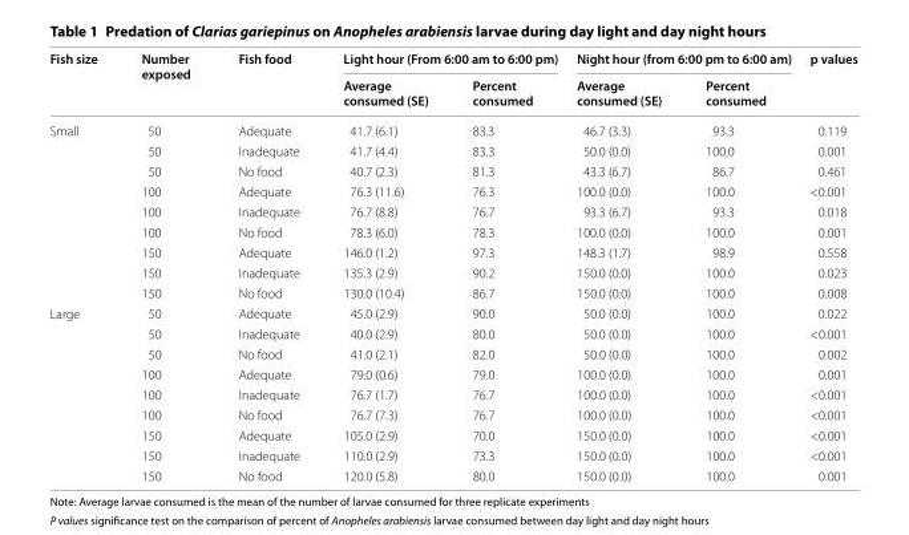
<table><thead><tr><td rowspan="2">Fish size</td><td rowspan="2">Number exposed</td><td rowspan="2">Fish food</td><td colspan="2">Light hour (From 6:00 am to 6:00 pm)</td><td colspan="2">Night hour (from 6:00 pm to 6:00 am)</td><td rowspan="2">p values</td></tr><tr><td>Average consumed (SE)</td><td>Percent consumed</td><td>Average consumed (SE)</td><td>Percent consumed</td></tr></thead><tbody><tr><td rowspan="9">Small</td><td>50</td><td>Adequate</td><td>41.7 (6.1)</td><td>83.3</td><td>46.7 (3.3)</td><td>93.3</td><td>0.119</td></tr><tr><td>50</td><td>Inadequate</td><td>41.7 (4.4)</td><td>83.3</td><td>50.0 (0.0)</td><td>100.0</td><td>0.001</td></tr><tr><td>50</td><td>No food</td><td>40.7 (2.3)</td><td>81.3</td><td>43.3 (6.7)</td><td>86.7</td><td>0.461</td></tr><tr><td>100</td><td>Adequate</td><td>76.3 (11.6)</td><td>76.3</td><td>100.0 (0.0)</td><td>100.0</td><td>&lt;0.001</td></tr><tr><td>100</td><td>Inadequate</td><td>76.7 (8.8)</td><td>76.7</td><td>93.3 (6.7)</td><td>93.3</td><td>0.018</td></tr><tr><td>100</td><td>No food</td><td>78.3 (6.0)</td><td>78.3</td><td>100.0 (0.0)</td><td>100.0</td><td>0.001</td></tr><tr><td>150</td><td>Adequate</td><td>146.0 (1.2)</td><td>97.3</td><td>148.3 (1.7)</td><td>98.9</td><td>0.558</td></tr><tr><td>150</td><td>Inadequate</td><td>135.3 (2.9)</td><td>90.2</td><td>150.0 (0.0)</td><td>100.0</td><td>0.023</td></tr><tr><td>150</td><td>No food</td><td>130.0 (10.4)</td><td>86.7</td><td>150.0 (0.0)</td><td>100.0</td><td>0.008</td></tr><tr><td rowspan="9">Large</td><td>50</td><td>Adequate</td><td>45.0 (2.9)</td><td>90.0</td><td>50.0 (0.0)</td><td>100.0</td><td>0.022</td></tr><tr><td>50</td><td>Inadequate</td><td>40.0 (2.9)</td><td>80.0</td><td>50.0 (0.0)</td><td>100.0</td><td>&lt;0.001</td></tr><tr><td>50</td><td>No food</td><td>41.0 (2.1)</td><td>82.0</td><td>50.0 (0.0)</td><td>100.0</td><td>0.002</td></tr><tr><td>100</td><td>Adequate</td><td>79.0 (0.6)</td><td>79.0</td><td>100.0 (0.0)</td><td>100.0</td><td>0.001</td></tr><tr><td>100</td><td>Inadequate</td><td>76.7 (1.7)</td><td>76.7</td><td>100.0 (0.0)</td><td>100.0</td><td>&lt;0.001</td></tr><tr><td>100</td><td>No food</td><td>76.7 (7.3)</td><td>76.7</td><td>100.0 (0.0)</td><td>100.0</td><td>&lt;0.001</td></tr><tr><td>150</td><td>Adequate</td><td>105.0 (2.9)</td><td>70.0</td><td>150.0 (0.0)</td><td>100.0</td><td>&lt;0.001</td></tr><tr><td>150</td><td>Inadequate</td><td>110.0 (2.9)</td><td>73.3</td><td>150.0 (0.0)</td><td>100.0</td><td>&lt;0.001</td></tr><tr><td>150</td><td>No food</td><td>120.0 (5.8)</td><td>80.0</td><td>150.0 (0.0)</td><td>100.0</td><td>0.001</td></tr></tbody></table>